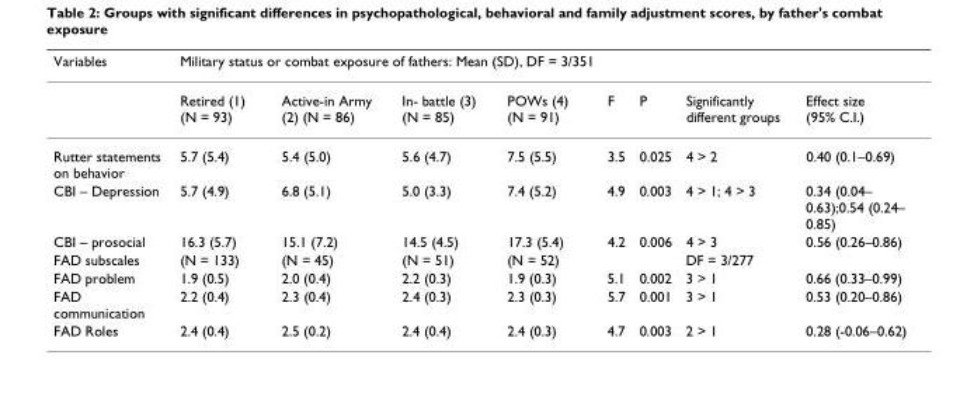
<table><thead><tr><td rowspan="2">Variables</td><td colspan="8">Military status or combat exposure of fathers: Mean (SD), DF = 3/351</td></tr><tr><td>Retired (1) (N = 93)</td><td>Active-in Army (2) (N = 86)</td><td>In- battle (3) (N = 85)</td><td>POWs (4) (N = 91)</td><td>F</td><td>P</td><td>Significantly different groups</td><td>Effect size (95% C.I.)</td></tr></thead><tbody><tr><td>Rutter statements on behavior</td><td>5.7 (5.4)</td><td>5.4 (5.0)</td><td>5.6 (4.7)</td><td>7.5 (5.5)</td><td>3.5</td><td>0.025</td><td>4 &gt; 2</td><td>0.40 (0.1–0.69)</td></tr><tr><td>CBI – Depression</td><td>5.7 (4.9)</td><td>6.8 (5.1)</td><td>5.0 (3.3)</td><td>7.4 (5.2)</td><td>4.9</td><td>0.003</td><td>4 &gt; 1; 4 &gt; 3</td><td>0.34 (0.04– 0.63);0.54 (0.24– 0.85)</td></tr><tr><td>CBI – prosocial</td><td>16.3 (5.7)</td><td>15.1 (7.2)</td><td>14.5 (4.5)</td><td>17.3 (5.4)</td><td>4.2</td><td>0.006</td><td>4 &gt; 3</td><td>0.56 (0.26–0.86)</td></tr><tr><td>FAD subscales</td><td>(N = 133)</td><td>(N = 45)</td><td>(N = 51)</td><td>(N = 52)</td><td></td><td></td><td>DF = 3/277</td><td></td></tr><tr><td>FAD problem</td><td>1.9 (0.5)</td><td>2.0 (0.4)</td><td>2.2 (0.3)</td><td>1.9 (0.3)</td><td>5.1</td><td>0.002</td><td>3 &gt; 1</td><td>0.66 (0.33–0.99)</td></tr><tr><td>FAD communication</td><td>2.2 (0.4)</td><td>2.3 (0.4)</td><td>2.4 (0.3)</td><td>2.3 (0.3)</td><td>5.7</td><td>0.001</td><td>3 &gt; 1</td><td>0.53 (0.20–0.86)</td></tr><tr><td>FAD Roles</td><td>2.4 (0.4)</td><td>2.5 (0.2)</td><td>2.4 (0.4)</td><td>2.4 (0.3)</td><td>4.7</td><td>0.003</td><td>2 &gt; 1</td><td>0.28 (-0.06–0.62)</td></tr></tbody></table>